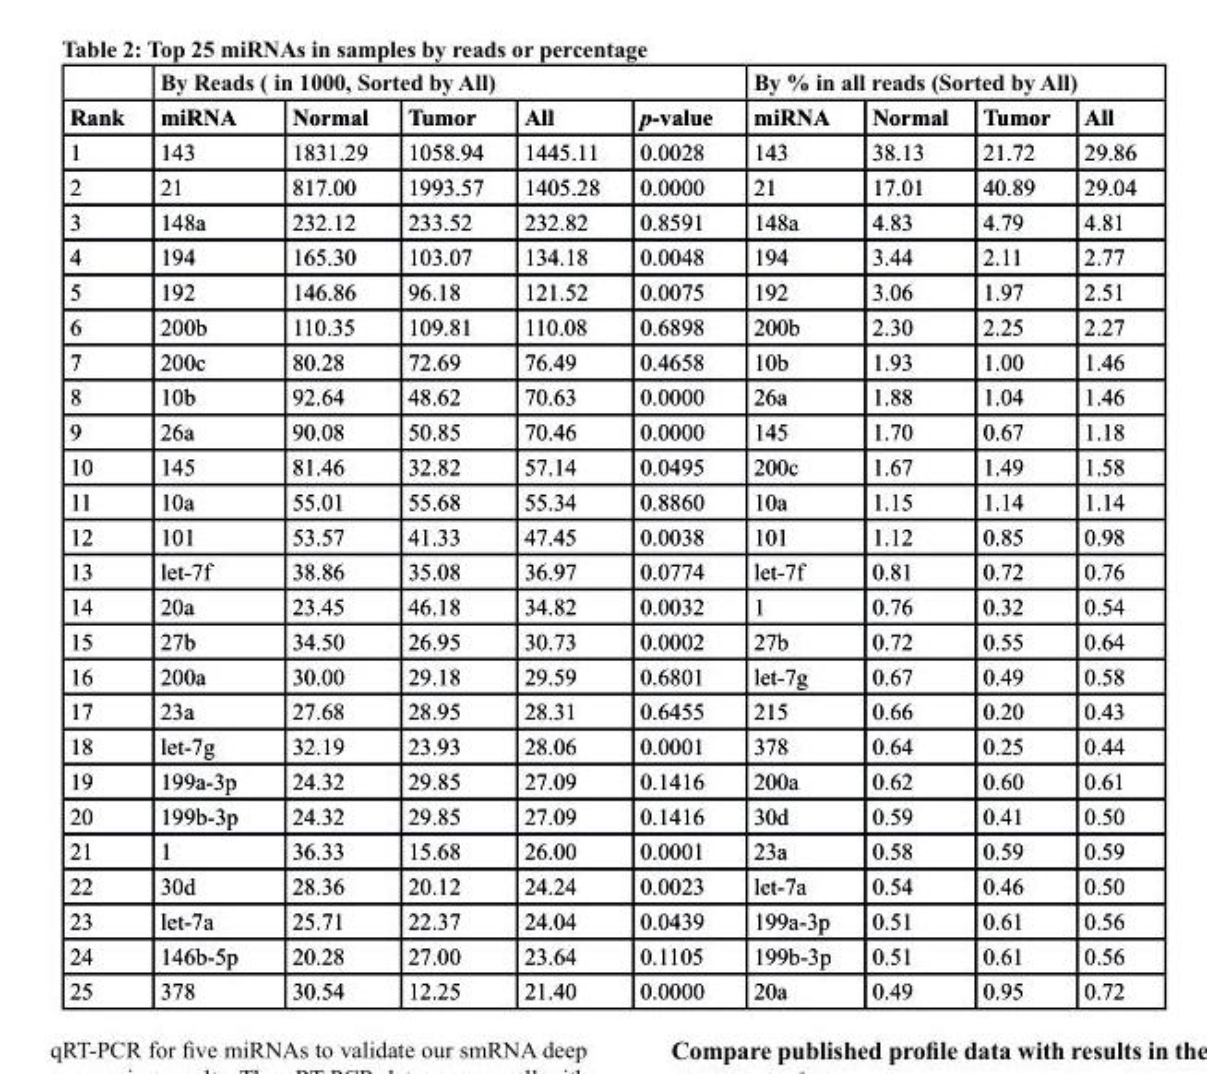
<table><thead><tr><td rowspan="2">rank</td><td colspan="5">by reads ( in 1000, sorted by All)</td><td colspan="4">by % in all reads (sorted by All)</td></tr><tr><td>mirNA</td><td>Normal</td><td>tumor</td><td>All</td><td>p-value</td><td>mirNA</td><td>Normal</td><td>tumor</td><td>All</td></tr></thead><tbody><tr><td>1</td><td>143</td><td>1831.29</td><td>1058.94</td><td>1445.11</td><td>0.0028</td><td>143</td><td>38.13</td><td>21.72</td><td>29.86</td></tr><tr><td>2</td><td>21</td><td>817.00</td><td>1993.57</td><td>1405.28</td><td>0.0000</td><td>21</td><td>17.01</td><td>40.89</td><td>29.04</td></tr><tr><td>3</td><td>148a</td><td>232.12</td><td>233.52</td><td>232.82</td><td>0.8591</td><td>148a</td><td>4.83</td><td>4.79</td><td>4.81</td></tr><tr><td>4</td><td>194</td><td>165.30</td><td>103.07</td><td>134.18</td><td>0.0048</td><td>194</td><td>3.44</td><td>2.11</td><td>2.77</td></tr><tr><td>5</td><td>192</td><td>146.86</td><td>96.18</td><td>121.52</td><td>0.0075</td><td>192</td><td>3.06</td><td>1.97</td><td>2.51</td></tr><tr><td>6</td><td>200b</td><td>110.35</td><td>109.81</td><td>110.08</td><td>0.6898</td><td>200b</td><td>2.30</td><td>2.25</td><td>2.27</td></tr><tr><td>7</td><td>200c</td><td>80.28</td><td>72.69</td><td>76.49</td><td>0.4658</td><td>10b</td><td>1.93</td><td>1.00</td><td>1.46</td></tr><tr><td>8</td><td>10b</td><td>92.64</td><td>48.62</td><td>70.63</td><td>0.0000</td><td>26a</td><td>1.88</td><td>1.04</td><td>1.46</td></tr><tr><td>9</td><td>26a</td><td>90.08</td><td>50.85</td><td>70.46</td><td>0.0000</td><td>145</td><td>1.70</td><td>0.67</td><td>1.18</td></tr><tr><td>10</td><td>145</td><td>81.46</td><td>32.82</td><td>57.14</td><td>0.0495</td><td>200c</td><td>1.67</td><td>1.49</td><td>1.58</td></tr><tr><td>11</td><td>10a</td><td>55.01</td><td>55.68</td><td>55.34</td><td>0.8860</td><td>10a</td><td>1.15</td><td>1.14</td><td>1.14</td></tr><tr><td>12</td><td>101</td><td>53.57</td><td>41.33</td><td>47.45</td><td>0.0038</td><td>101</td><td>1.12</td><td>0.85</td><td>0.98</td></tr><tr><td>13</td><td>let-7f</td><td>38.86</td><td>35.08</td><td>36.97</td><td>0.0774</td><td>let-7f</td><td>0.81</td><td>0.72</td><td>0.76</td></tr><tr><td>14</td><td>20a</td><td>23.45</td><td>46.18</td><td>34.82</td><td>0.0032</td><td>1</td><td>0.76</td><td>0.32</td><td>0.54</td></tr><tr><td>15</td><td>27b</td><td>34.50</td><td>26.95</td><td>30.73</td><td>0.0002</td><td>27b</td><td>0.72</td><td>0.55</td><td>0.64</td></tr><tr><td>16</td><td>200a</td><td>30.00</td><td>29.18</td><td>29.59</td><td>0.6801</td><td>let-7g</td><td>0.67</td><td>0.49</td><td>0.58</td></tr><tr><td>17</td><td>23a</td><td>27.68</td><td>28.95</td><td>28.31</td><td>0.6455</td><td>215</td><td>0.66</td><td>0.20</td><td>0.43</td></tr><tr><td>18</td><td>let-7g</td><td>32.19</td><td>23.93</td><td>28.06</td><td>0.0001</td><td>378</td><td>0.64</td><td>0.25</td><td>0.44</td></tr><tr><td>19</td><td>199a-3p</td><td>24.32</td><td>29.85</td><td>27.09</td><td>0.1416</td><td>200a</td><td>0.62</td><td>0.60</td><td>0.61</td></tr><tr><td>20</td><td>199b-3p</td><td>24.32</td><td>29.85</td><td>27.09</td><td>0.1416</td><td>30d</td><td>0.59</td><td>0.41</td><td>0.50</td></tr><tr><td>21</td><td>1</td><td>36.33</td><td>15.68</td><td>26.00</td><td>0.0001</td><td>23a</td><td>0.58</td><td>0.59</td><td>0.59</td></tr><tr><td>22</td><td>30d</td><td>28.36</td><td>20.12</td><td>24.24</td><td>0.0023</td><td>let-7a</td><td>0.54</td><td>0.46</td><td>0.50</td></tr><tr><td>23</td><td>let-7a</td><td>25.71</td><td>22.37</td><td>24.04</td><td>0.0439</td><td>199a-3p</td><td>0.51</td><td>0.61</td><td>0.56</td></tr><tr><td>24</td><td>146b-5p</td><td>20.28</td><td>27.00</td><td>23.64</td><td>0.1105</td><td>199b-3p</td><td>0.51</td><td>0.61</td><td>0.56</td></tr><tr><td>25</td><td>378</td><td>30.54</td><td>12.25</td><td>21.40</td><td>0.0000</td><td>20a</td><td>0.49</td><td>0.95</td><td>0.72</td></tr></tbody></table>